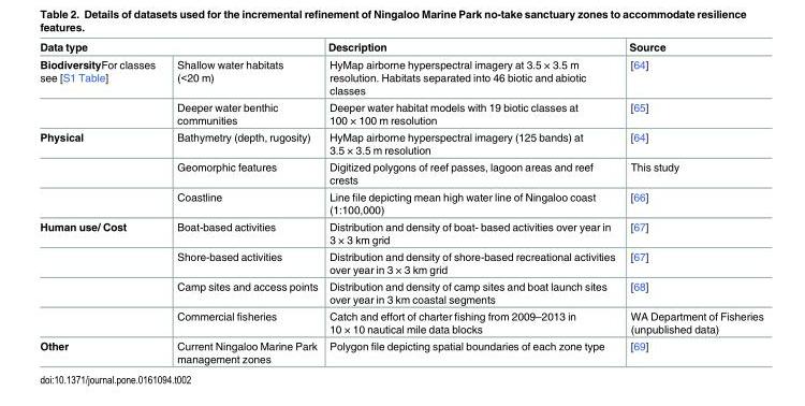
<table><thead><tr><td colspan="2">Data type</td><td rowspan="2">Description HyMap airborne hyperspectral imagery at 3.5 × 3.5 m resolution. Habitats separated into 46 biotic and abiotic classes</td><td rowspan="2">Source [64]</td></tr><tr><td>BiodiversityFor classes see [S1 Table]</td><td>Shallow water habitats (&lt;20 m)</td></tr></thead><tbody><tr><td></td><td>Deeper water benthic communities</td><td>Deeper water habitat models with 19 biotic classes at 100 × 100 m resolution</td><td>[65]</td></tr><tr><td rowspan="3">Physical</td><td>Bathymetry (depth, rugosity)</td><td>HyMap airborne hyperspectral imagery (125 bands) at 3.5 × 3.5 m resolution</td><td>[64]</td></tr><tr><td>Geomorphic features</td><td>Digitized polygons of reef passes, lagoon areas and reef crests</td><td>This study</td></tr><tr><td>Coastline</td><td>Line file depicting mean high water line of Ningaloo coast (1:100,000)</td><td>[66]</td></tr><tr><td rowspan="4">Human use/ Cost</td><td>Boat-based activities</td><td>Distribution and density of boat- based activities over year in 3 × 3 km grid</td><td>[67]</td></tr><tr><td>Shore-based activities</td><td>Distribution and density of shore-based recreational activities over year in 3 × 3 km grid</td><td>[67]</td></tr><tr><td>Camp sites and access points</td><td>Distribution and density of camp sites and boat launch sites over year in 3 km coastal segments</td><td>[68]</td></tr><tr><td>Commercial fisheries</td><td>Catch and effort of charter fishing from 2009–2013 in 10 × 10 nautical mile data blocks</td><td>WA Department of Fisheries (unpublished data)</td></tr><tr><td>Other</td><td>Current Ningaloo Marine Park management zones</td><td>Polygon file depicting spatial boundaries of each zone type</td><td>[69]</td></tr></tbody></table>